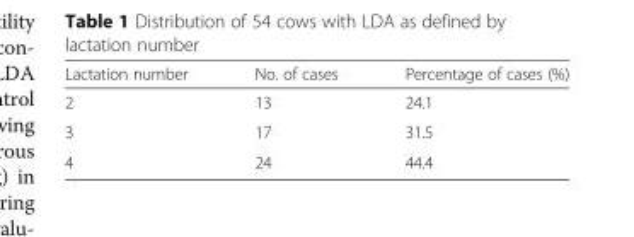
<table><thead><tr><td>Lactation number</td><td>No. of cases</td><td>Percentage of cases (%)</td></tr></thead><tbody><tr><td>2</td><td>13</td><td>24.1</td></tr><tr><td>3</td><td>17</td><td>31.5</td></tr><tr><td>4</td><td>24</td><td>44.4</td></tr></tbody></table>